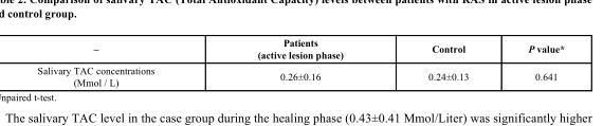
<table><thead><tr><td>–</td><td>Patients (active lesion phase)</td><td>Control</td><td>P value*</td></tr></thead><tbody><tr><td>Salivary TAC concentrations (Mmol / L)</td><td>0.26±0.16</td><td>0.24±0.13</td><td>0.641</td></tr></tbody></table>